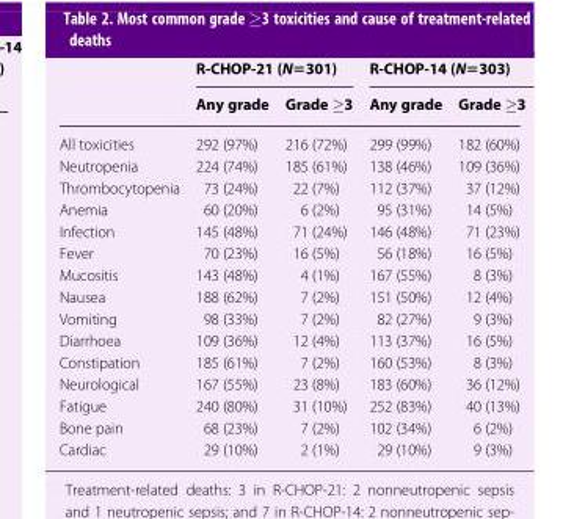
<table><thead><tr><td rowspan="2"></td><td colspan="2">R-CHOP-21 (N=301)</td><td colspan="2">R-CHOP-14 (N=303)</td></tr><tr><td>Any grade</td><td>Grade ≥3</td><td>Any grade</td><td>Grade ≥3</td></tr></thead><tbody><tr><td>All toxicities</td><td>292 (97%)</td><td>216 (72%)</td><td>299 (99%)</td><td>182 (60%)</td></tr><tr><td>Neutropenia</td><td>224 (74%)</td><td>185 (61%)</td><td>138 (46%)</td><td>109 (36%)</td></tr><tr><td>Thrombocytopenia</td><td>73 (24%)</td><td>22 (7%)</td><td>112 (37%)</td><td>37 (12%)</td></tr><tr><td>Anemia</td><td>60 (20%)</td><td>6 (2%)</td><td>95 (31%)</td><td>14 (5%)</td></tr><tr><td>Infection</td><td>145 (48%)</td><td>71 (24%)</td><td>146 (48%)</td><td>71 (23%)</td></tr><tr><td>Fever</td><td>70 (23%)</td><td>16 (5%)</td><td>56 (18%)</td><td>16 (5%)</td></tr><tr><td>Mucositis</td><td>143 (48%)</td><td>4 (1%)</td><td>167 (55%)</td><td>8 (3%)</td></tr><tr><td>Nausea</td><td>188 (62%)</td><td>7 (2%)</td><td>151 (50%)</td><td>12 (4%)</td></tr><tr><td>Vomiting</td><td>98 (33%)</td><td>7 (2%)</td><td>82 (27%)</td><td>9 (3%)</td></tr><tr><td>Diarrhoea</td><td>109 (36%)</td><td>12 (4%)</td><td>113 (37%)</td><td>16 (5%)</td></tr><tr><td>Constipation</td><td>185 (61%)</td><td>7 (2%)</td><td>160 (53%)</td><td>8 (3%)</td></tr><tr><td>Neurological</td><td>167 (55%)</td><td>23 (8%)</td><td>183 (60%)</td><td>36 (12%)</td></tr><tr><td>Fatigue</td><td>240 (80%)</td><td>31 (10%)</td><td>252 (83%)</td><td>40 (13%)</td></tr><tr><td>Bone pain</td><td>68 (23%)</td><td>7 (2%)</td><td>102 (34%)</td><td>6 (2%)</td></tr><tr><td>Cardiac</td><td>29 (10%)</td><td>2 (1%)</td><td>29 (10%)</td><td>9 (3%)</td></tr></tbody></table>